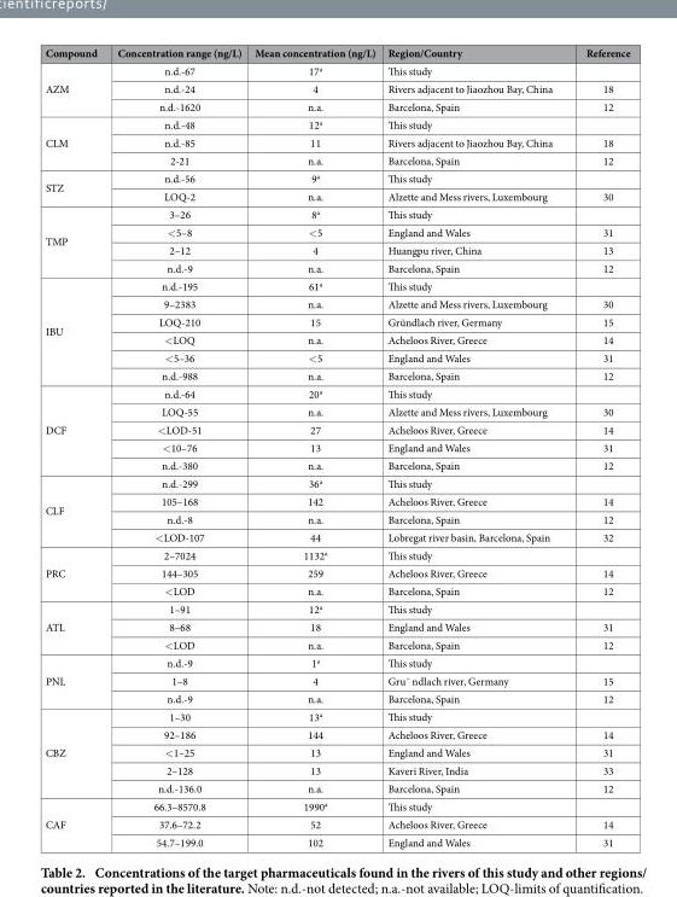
<table><thead><tr><td>Compound</td><td>Concentration range (ng/L)</td><td>Mean concentration (ng/L)</td><td>Region/Country</td><td>Reference</td></tr></thead><tbody><tr><td rowspan="3">AZM</td><td>n.d.-67</td><td>17<sup>a</sup></td><td>This study</td><td></td></tr><tr><td>n.d.-24</td><td>4</td><td>Rivers adjacent to Jiaozhou Bay, China</td><td>18</td></tr><tr><td>n.d.-1620</td><td>n.a.</td><td>Barcelona, Spain</td><td>12</td></tr><tr><td rowspan="3">CLM</td><td>n.d.-48</td><td>12<sup>a</sup></td><td>This study</td><td></td></tr><tr><td>n.d.-85</td><td>11</td><td>Rivers adjacent to Jiaozhou Bay, China</td><td>18</td></tr><tr><td>2-21</td><td>n.a.</td><td>Barcelona, Spain</td><td>12</td></tr><tr><td rowspan="2">STZ</td><td>n.d.-56</td><td>9<sup>a</sup></td><td>This study</td><td></td></tr><tr><td>LOQ-2</td><td>n.a.</td><td>Alzette and Mess rivers, Luxembourg</td><td>30</td></tr><tr><td rowspan="4">TMP</td><td>3–26</td><td>8<sup>a</sup></td><td>This study</td><td></td></tr><tr><td>&lt; 5–8</td><td>&lt; 5</td><td>England and Wales</td><td>31</td></tr><tr><td>2–12</td><td>4</td><td>Huangpu river, China</td><td>13</td></tr><tr><td>n.d.-9</td><td>n.a.</td><td>Barcelona, Spain</td><td>12</td></tr><tr><td rowspan="6">IBU</td><td>n.d.-195</td><td>61<sup>a</sup></td><td>This study</td><td></td></tr><tr><td>9–2383</td><td>n.a.</td><td>Alzette and Mess rivers, Luxembourg</td><td>30</td></tr><tr><td>LOQ-210</td><td>15</td><td>Gründlach river, Germany</td><td>15</td></tr><tr><td>&lt; LOQ</td><td>n.a.</td><td>Acheloos River, Greece</td><td>14</td></tr><tr><td>&lt; 5–36</td><td>&lt; 5</td><td>England and Wales</td><td>31</td></tr><tr><td>n.d.-988</td><td>n.a.</td><td>Barcelona, Spain</td><td>12</td></tr><tr><td rowspan="5">DCF</td><td>n.d.-64</td><td>20<sup>a</sup></td><td>This study</td><td></td></tr><tr><td>LOQ-55</td><td>n.a.</td><td>Alzette and Mess rivers, Luxembourg</td><td>30</td></tr><tr><td>&lt; LOD-51</td><td>27</td><td>Acheloos River, Greece</td><td>14</td></tr><tr><td>&lt; 10–76</td><td>13</td><td>England and Wales</td><td>31</td></tr><tr><td>n.d.-380</td><td>n.a.</td><td>Barcelona, Spain</td><td>12</td></tr><tr><td rowspan="4">CLF</td><td>n.d.-299</td><td>36<sup>a</sup></td><td>This study</td><td></td></tr><tr><td>105–168</td><td>142</td><td>Acheloos River, Greece</td><td>14</td></tr><tr><td>n.d.-8</td><td>n.a.</td><td>Barcelona, Spain</td><td>12</td></tr><tr><td>&lt; LOD-107</td><td>44</td><td>Lobregat river basin, Barcelona, Spain</td><td>32</td></tr><tr><td rowspan="3">PRC</td><td>2–7024</td><td>1132<sup>a</sup></td><td>This study</td><td></td></tr><tr><td>144–305</td><td>259</td><td>Acheloos River, Greece</td><td>14</td></tr><tr><td>&lt; LOD</td><td>n.a.</td><td>Barcelona, Spain</td><td>12</td></tr><tr><td rowspan="3">ATL</td><td>1–91</td><td>12<sup>a</sup></td><td>This study</td><td></td></tr><tr><td>8–68</td><td>18</td><td>England and Wales</td><td>31</td></tr><tr><td>&lt; LOD</td><td>n.a.</td><td>Barcelona, Spain</td><td>12</td></tr><tr><td rowspan="3">PNL</td><td>n.d.-9</td><td>1<sup>a</sup></td><td>This study</td><td></td></tr><tr><td>1–8</td><td>4</td><td>Gru¨ ndlach river, Germany</td><td>15</td></tr><tr><td>n.d.-9</td><td>n.a.</td><td>Barcelona, Spain</td><td>12</td></tr><tr><td rowspan="5">CBZ</td><td>1–30</td><td>13<sup>a</sup></td><td>This study</td><td></td></tr><tr><td>92–186</td><td>144</td><td>Acheloos River, Greece</td><td>14</td></tr><tr><td>&lt; 1–25</td><td>13</td><td>England and Wales</td><td>31</td></tr><tr><td>2–128</td><td>13</td><td>Kaveri River, India</td><td>33</td></tr><tr><td>n.d.-136.0</td><td>n.a.</td><td>Barcelona, Spain</td><td>12</td></tr><tr><td rowspan="3">CAF</td><td>66.3–8570.8</td><td>1990<sup>a</sup></td><td>This study</td><td></td></tr><tr><td>37.6–72.2</td><td>52</td><td>Acheloos River, Greece</td><td>14</td></tr><tr><td>54.7–199.0</td><td>102</td><td>England and Wales</td><td>31</td></tr></tbody></table>